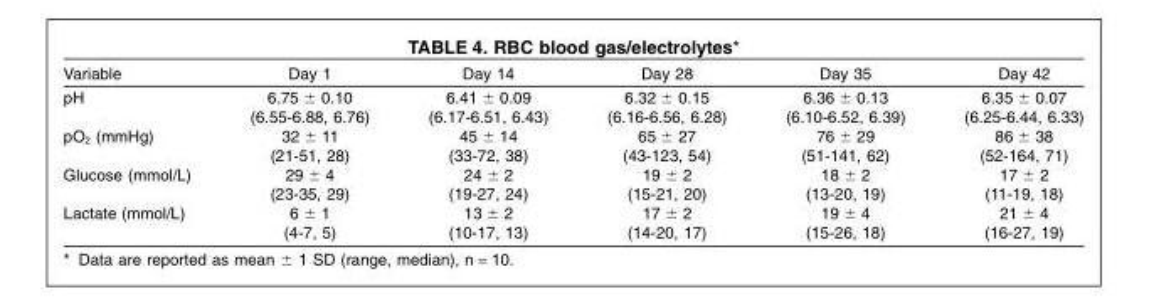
<table><thead><tr><td>Variable</td><td>Day 1</td><td>Day 14</td><td>Day 28</td><td>Day 35</td><td>Day 42</td></tr></thead><tbody><tr><td>pH</td><td>6.75 ± 0.10 (6.55-6.88, 6.76)</td><td>6.41 ± 0.09 (6.17-6.51, 6.43)</td><td>6.32 ± 0.15 (6.16-6.56, 6.28)</td><td>6.36 ± 0.13 (6.10-6.52, 6.39)</td><td>6.35 ± 0.07 (6.25-6.44, 6.33)</td></tr><tr><td>pO<sub>2</sub> (mmHg)</td><td>32 ± 11 (21-51, 28)</td><td>45 ± 14 (33-72, 38)</td><td>65 ± 27 (43-123, 54)</td><td>76 ± 29 (51-141, 62)</td><td>86 ± 38 (52-164, 71)</td></tr><tr><td>Glucose (mmol/L)</td><td>29 ± 4 (23-35, 29)</td><td>24 ± 2 (19-27, 24)</td><td>19 ± 2 (15-21, 20)</td><td>18 ± 2 (13-20, 19)</td><td>17 ± 2 (11-19, 18)</td></tr><tr><td>Lactate (mmol/L)</td><td>6 ± 1 (4-7, 5)</td><td>13 ± 2 (10-17, 13)</td><td>17 ± 2 (14-20, 17)</td><td>19 ± 4 (15-26, 18)</td><td>21 ± 4 (16-27, 19)</td></tr></tbody></table>